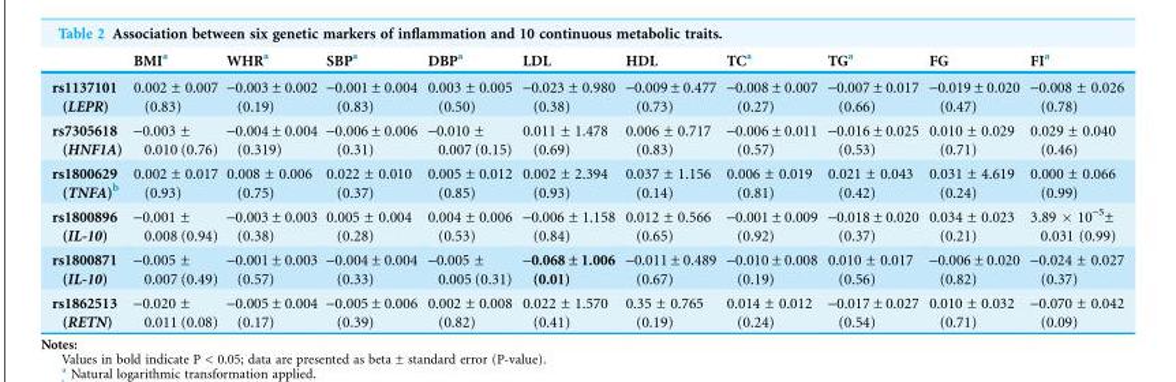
<table><thead><tr><td></td><td>BMI<sup>a</sup></td><td>WHR<sup>a</sup></td><td>SBP<sup>a</sup></td><td>DBP<sup>a</sup></td><td>LDL</td><td>HDL</td><td>TC<sup>a</sup></td><td>TG<sup>a</sup></td><td>FG</td><td>FI<sup>a</sup></td></tr></thead><tbody><tr><td>rs1137101 (LEPR)</td><td>0.002 ± 0.007 (0.83)</td><td>-0.003 ± 0.002 (0.19)</td><td>-0.001 ± 0.004 (0.83)</td><td>0.003 ± 0.005 (0.50)</td><td>-0.023 ± 0.980 (0.38)</td><td>-0.009 ± 0.477 (0.73)</td><td>-0.008 ± 0.007 (0.27)</td><td>-0.007 ± 0.017 (0.66)</td><td>-0.019 ± 0.020 (0.47)</td><td>-0.008 ± 0.026 (0.78)</td></tr><tr><td>rs7305618 (HNF1A)</td><td>-0.003 ± 0.010 (0.76)</td><td>-0.004 ± 0.004 (0.319)</td><td>-0.006 ± 0.006 (0.31)</td><td>-0.010 ± 0.007 (0.15)</td><td>0.011 ± 1.478 (0.69)</td><td>0.006 ± 0.717 (0.83)</td><td>-0.006 ± 0.011 (0.57)</td><td>-0.016 ± 0.025 (0.53)</td><td>0.010 ± 0.029 (0.71)</td><td>0.029 ± 0.040 (0.46)</td></tr><tr><td>rs1800629 (TNFA)<sup>b</sup></td><td>0.002 ± 0.017 (0.93)</td><td>0.008 ± 0.006 (0.75)</td><td>0.022 ± 0.010 (0.37)</td><td>0.005 ± 0.012 (0.85)</td><td>0.002 ± 2.394 (0.93)</td><td>0.037 ± 1.156 (0.14)</td><td>0.006 ± 0.019 (0.81)</td><td>0.021 ± 0.043 (0.42)</td><td>0.031 ± 4.619 (0.24)</td><td>0.000 ± 0.066 (0.99)</td></tr><tr><td>rs1800896 (IL-10)</td><td>-0.001 ± 0.008 (0.94)</td><td>-0.003 ± 0.003 (0.38)</td><td>0.005 ± 0.004 (0.28)</td><td>0.004 ± 0.006 (0.53)</td><td>-0.006 ± 1.158 (0.84)</td><td>0.012 ± 0.566 (0.65)</td><td>-0.001 ± 0.009 (0.92)</td><td>-0.018 ± 0.020 (0.37)</td><td>0.034 ± 0.023 (0.21)</td><td>3.89 × 10<sup>-5</sup>± 0.031 (0.99)</td></tr><tr><td>rs1800871 (IL-10)</td><td>-0.005 ± 0.007 (0.49)</td><td>-0.001 ± 0.003 (0.57)</td><td>-0.004 ± 0.004 (0.33)</td><td>-0.005 ± 0.005 (0.31)</td><td>-0.068 ± 1.006 (0.01)</td><td>-0.011 ± 0.489 (0.67)</td><td>-0.010 ± 0.008 (0.19)</td><td>0.010 ± 0.017 (0.56)</td><td>-0.006 ± 0.020 (0.82)</td><td>-0.024 ± 0.027 (0.37)</td></tr><tr><td>rs1862513 (RETN)</td><td>-0.020 ± 0.011 (0.08)</td><td>-0.005 ± 0.004 (0.17)</td><td>-0.005 ± 0.006 (0.39)</td><td>0.002 ± 0.008 (0.82)</td><td>0.022 ± 1.570 (0.41)</td><td>0.35 ± 0.765 (0.19)</td><td>0.014 ± 0.012 (0.24)</td><td>-0.017 ± 0.027 (0.54)</td><td>0.010 ± 0.032 (0.71)</td><td>-0.070 ± 0.042 (0.09)</td></tr></tbody></table>